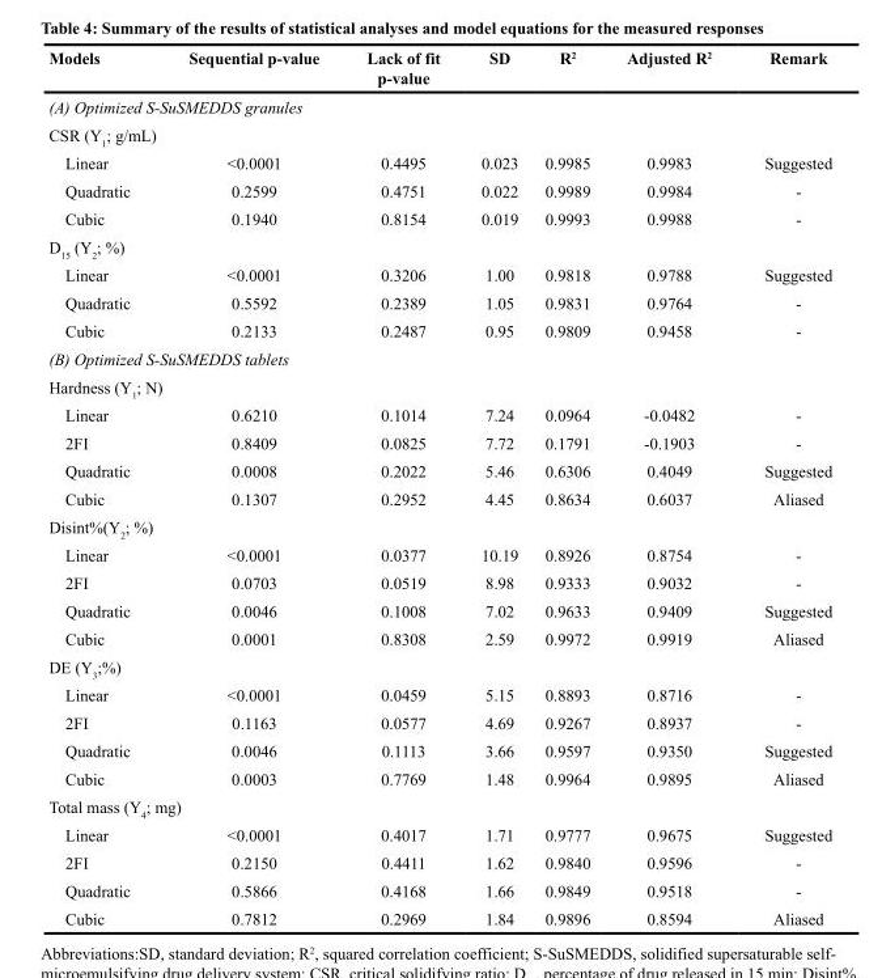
<table><thead><tr><td>Models</td><td>Sequential p-value</td><td>Lack of fit p-value</td><td>SD</td><td>R<sup>2</sup></td><td>Adjusted R<sup>2</sup></td><td>Remark</td></tr></thead><tbody><tr><td colspan="7">(A) Optimized S-SuSMEDDS granules</td></tr><tr><td colspan="7">CSR (Y<sub>1</sub>; g/mL)</td></tr><tr><td>Linear</td><td>&lt;0.0001</td><td>0.4495</td><td>0.023</td><td>0.9985</td><td>0.9983</td><td>Suggested</td></tr><tr><td>Quadratic</td><td>0.2599</td><td>0.4751</td><td>0.022</td><td>0.9989</td><td>0.9984</td><td>-</td></tr><tr><td>Cubic</td><td>0.1940</td><td>0.8154</td><td>0.019</td><td>0.9993</td><td>0.9988</td><td>-</td></tr><tr><td colspan="7">D<sub>15</sub> (Y<sub>2</sub>; %)</td></tr><tr><td>Linear</td><td>&lt;0.0001</td><td>0.3206</td><td>1.00</td><td>0.9818</td><td>0.9788</td><td>Suggested</td></tr><tr><td>Quadratic</td><td>0.5592</td><td>0.2389</td><td>1.05</td><td>0.9831</td><td>0.9764</td><td>-</td></tr><tr><td>Cubic</td><td>0.2133</td><td>0.2487</td><td>0.95</td><td>0.9809</td><td>0.9458</td><td>-</td></tr><tr><td colspan="7">(B) Optimized S-SuSMEDDS tablets</td></tr><tr><td colspan="7">Hardness (Y<sub>1</sub>; N)</td></tr><tr><td>Linear</td><td>0.6210</td><td>0.1014</td><td>7.24</td><td>0.0964</td><td>-0.0482</td><td>-</td></tr><tr><td>2FI</td><td>0.8409</td><td>0.0825</td><td>7.72</td><td>0.1791</td><td>-0.1903</td><td>-</td></tr><tr><td>Quadratic</td><td>0.0008</td><td>0.2022</td><td>5.46</td><td>0.6306</td><td>0.4049</td><td>Suggested</td></tr><tr><td>Cubic</td><td>0.1307</td><td>0.2952</td><td>4.45</td><td>0.8634</td><td>0.6037</td><td>Aliased</td></tr><tr><td colspan="7">Disint%(Y<sub>2</sub>; %)</td></tr><tr><td>Linear</td><td>&lt;0.0001</td><td>0.0377</td><td>10.19</td><td>0.8926</td><td>0.8754</td><td>-</td></tr><tr><td>2FI</td><td>0.0703</td><td>0.0519</td><td>8.98</td><td>0.9333</td><td>0.9032</td><td>-</td></tr><tr><td>Quadratic</td><td>0.0046</td><td>0.1008</td><td>7.02</td><td>0.9633</td><td>0.9409</td><td>Suggested</td></tr><tr><td>Cubic</td><td>0.0001</td><td>0.8308</td><td>2.59</td><td>0.9972</td><td>0.9919</td><td>Aliased</td></tr><tr><td colspan="7">DE (Y<sub>3</sub>;%)</td></tr><tr><td>Linear</td><td>&lt;0.0001</td><td>0.0459</td><td>5.15</td><td>0.8893</td><td>0.8716</td><td>-</td></tr><tr><td>2FI</td><td>0.1163</td><td>0.0577</td><td>4.69</td><td>0.9267</td><td>0.8937</td><td>-</td></tr><tr><td>Quadratic</td><td>0.0046</td><td>0.1113</td><td>3.66</td><td>0.9597</td><td>0.9350</td><td>Suggested</td></tr><tr><td>Cubic</td><td>0.0003</td><td>0.7769</td><td>1.48</td><td>0.9964</td><td>0.9895</td><td>Aliased</td></tr><tr><td colspan="7">Total mass (Y<sub>4</sub>; mg)</td></tr><tr><td>Linear</td><td>&lt;0.0001</td><td>0.4017</td><td>1.71</td><td>0.9777</td><td>0.9675</td><td>Suggested</td></tr><tr><td>2FI</td><td>0.2150</td><td>0.4411</td><td>1.62</td><td>0.9840</td><td>0.9596</td><td>-</td></tr><tr><td>Quadratic</td><td>0.5866</td><td>0.4168</td><td>1.66</td><td>0.9849</td><td>0.9518</td><td>-</td></tr><tr><td>Cubic</td><td>0.7812</td><td>0.2969</td><td>1.84</td><td>0.9896</td><td>0.8594</td><td>Aliased</td></tr></tbody></table>